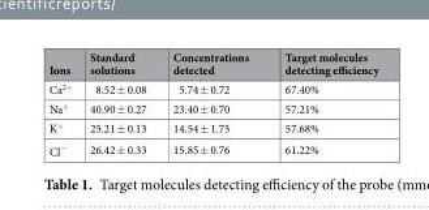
<table><thead><tr><td>Ions</td><td>Standard solutions</td><td>Concentrations detected</td><td>Target molecules detecting efficiency</td></tr></thead><tbody><tr><td>Ca<sup>2+</sup></td><td>8.52 ± 0.08</td><td>5.74 ± 0.72</td><td>67.40%</td></tr><tr><td>Na<sup>+</sup></td><td>40.90 ± 0.27</td><td>23.40 ± 0.70</td><td>57.21%</td></tr><tr><td>K<sup>+</sup></td><td>25.21 ± 0.13</td><td>14.54 ± 1.75</td><td>57.68%</td></tr><tr><td>Cl<sup>−</sup></td><td>26.42 ± 0.33</td><td>15.85 ± 0.76</td><td>61.22%</td></tr></tbody></table>